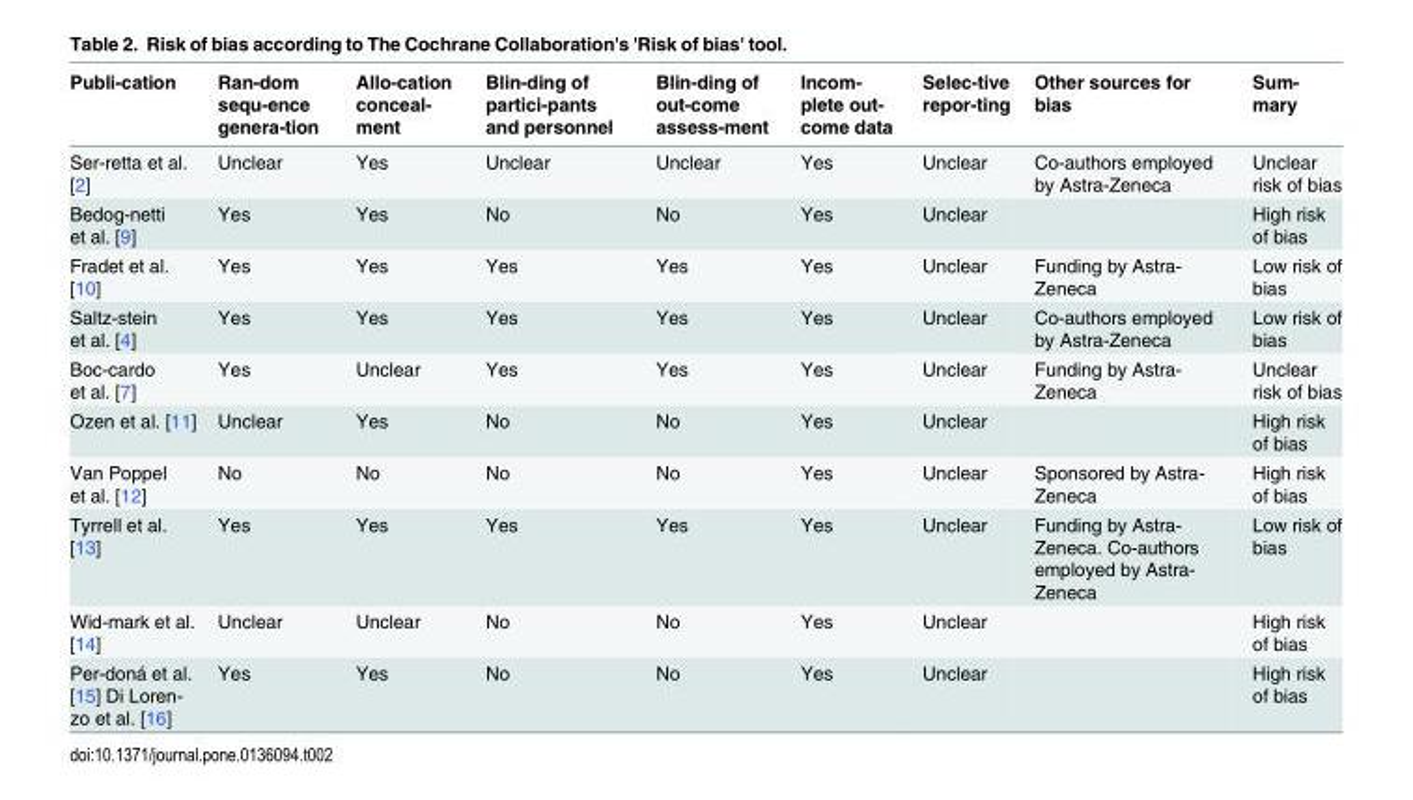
<table><thead><tr><td>Publi-cation</td><td>Ran-dom sequ-ence genera-tion</td><td>Allo-cation conceal- ment</td><td>Blin-ding of partici-pants and personnel</td><td>Blin-ding of out-come assess-ment</td><td>Incom- plete out- come data</td><td>Selec-tive repor-ting</td><td>Other sources for bias</td><td>Sum- mary</td></tr></thead><tbody><tr><td>Ser-retta et al. [2]</td><td>Unclear</td><td>Yes</td><td>Unclear</td><td>Unclear</td><td>Yes</td><td>Unclear</td><td>Co-authors employed by Astra-Zeneca</td><td>Unclear risk of bias</td></tr><tr><td>Bedog-netti et al. [9]</td><td>Yes</td><td>Yes</td><td>No</td><td>No</td><td>Yes</td><td>Unclear</td><td></td><td>High risk of bias</td></tr><tr><td>Fradet et al. [10]</td><td>Yes</td><td>Yes</td><td>Yes</td><td>Yes</td><td>Yes</td><td>Unclear</td><td>Funding by Astra- Zeneca</td><td>Low risk of bias</td></tr><tr><td>Saltz-stein et al. [4]</td><td>Yes</td><td>Yes</td><td>Yes</td><td>Yes</td><td>Yes</td><td>Unclear</td><td>Co-authors employed by Astra-Zeneca</td><td>Low risk of bias</td></tr><tr><td>Boc-cardo et al. [7]</td><td>Yes</td><td>Unclear</td><td>Yes</td><td>Yes</td><td>Yes</td><td>Unclear</td><td>Funding by Astra- Zeneca</td><td>Unclear risk of bias</td></tr><tr><td>Ozen et al. [11]</td><td>Unclear</td><td>Yes</td><td>No</td><td>No</td><td>Yes</td><td>Unclear</td><td></td><td>High risk of bias</td></tr><tr><td>Van Poppel et al. [12]</td><td>No</td><td>No</td><td>No</td><td>No</td><td>Yes</td><td>Unclear</td><td>Sponsored by Astra- Zeneca</td><td>High risk of bias</td></tr><tr><td>Tyrrell et al. [13]</td><td>Yes</td><td>Yes</td><td>Yes</td><td>Yes</td><td>Yes</td><td>Unclear</td><td>Funding by Astra- Zeneca. Co-authors employed by Astra- Zeneca</td><td>Low risk of bias</td></tr><tr><td>Wid-mark et al. [14]</td><td>Unclear</td><td>Unclear</td><td>No</td><td>No</td><td>Yes</td><td>Unclear</td><td></td><td>High risk of bias</td></tr><tr><td>Per-doná et al. [15] Di Loren- zo et al. [16]</td><td>Yes</td><td>Yes</td><td>No</td><td>No</td><td>Yes</td><td>Unclear</td><td></td><td>High risk of bias</td></tr></tbody></table>